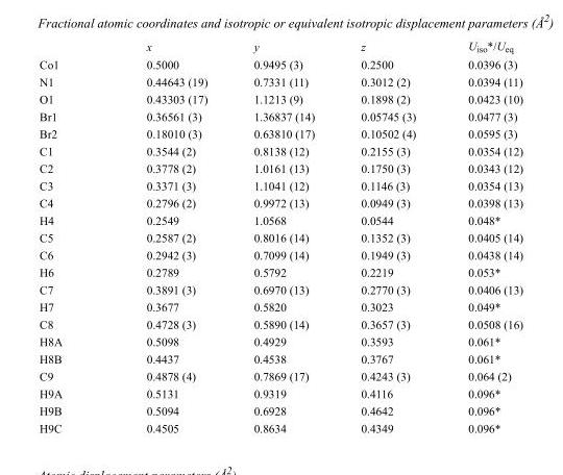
<table><thead><tr><td></td><td>x</td><td>y</td><td>z</td><td>U<sub>iso</sub>*/U<sub>eq</sub></td></tr></thead><tbody><tr><td>Co1</td><td>0.5000</td><td>0.9495 (3)</td><td>0.2500</td><td>0.0396 (3)</td></tr><tr><td>N1</td><td>0.44643 (19)</td><td>0.7331 (11)</td><td>0.3012 (2)</td><td>0.0394 (11)</td></tr><tr><td>O1</td><td>0.43303 (17)</td><td>1.1213 (9)</td><td>0.1898 (2)</td><td>0.0423 (10)</td></tr><tr><td>Br1</td><td>0.36561 (3)</td><td>1.36837 (14)</td><td>0.05745 (3)</td><td>0.0477 (3)</td></tr><tr><td>Br2</td><td>0.18010 (3)</td><td>0.63810 (17)</td><td>0.10502 (4)</td><td>0.0595 (3)</td></tr><tr><td>C1</td><td>0.3544 (2)</td><td>0.8138 (12)</td><td>0.2155 (3)</td><td>0.0354 (12)</td></tr><tr><td>C2</td><td>0.3778 (2)</td><td>1.0161 (13)</td><td>0.1750 (3)</td><td>0.0343 (12)</td></tr><tr><td>C3</td><td>0.3371 (3)</td><td>1.1041 (12)</td><td>0.1146 (3)</td><td>0.0354 (13)</td></tr><tr><td>C4</td><td>0.2796 (2)</td><td>0.9972 (13)</td><td>0.0949 (3)</td><td>0.0398 (13)</td></tr><tr><td>H4</td><td>0.2549</td><td>1.0568</td><td>0.0544</td><td>0.048*</td></tr><tr><td>C5</td><td>0.2587 (2)</td><td>0.8016 (14)</td><td>0.1352 (3)</td><td>0.0405 (14)</td></tr><tr><td>C6</td><td>0.2942 (3)</td><td>0.7099 (14)</td><td>0.1949 (3)</td><td>0.0438 (14)</td></tr><tr><td>H6</td><td>0.2789</td><td>0.5792</td><td>0.2219</td><td>0.053*</td></tr><tr><td>C7</td><td>0.3891 (3)</td><td>0.6970 (13)</td><td>0.2770 (3)</td><td>0.0406 (13)</td></tr><tr><td>H7</td><td>0.3677</td><td>0.5820</td><td>0.3023</td><td>0.049*</td></tr><tr><td>C8</td><td>0.4728 (3)</td><td>0.5890 (14)</td><td>0.3657 (3)</td><td>0.0508 (16)</td></tr><tr><td>H8A</td><td>0.5098</td><td>0.4929</td><td>0.3593</td><td>0.061*</td></tr><tr><td>H8B</td><td>0.4437</td><td>0.4538</td><td>0.3767</td><td>0.061*</td></tr><tr><td>C9</td><td>0.4878 (4)</td><td>0.7869 (17)</td><td>0.4243 (3)</td><td>0.064 (2)</td></tr><tr><td>H9A</td><td>0.5131</td><td>0.9319</td><td>0.4116</td><td>0.096*</td></tr><tr><td>H9B</td><td>0.5094</td><td>0.6928</td><td>0.4642</td><td>0.096*</td></tr><tr><td>H9C</td><td>0.4505</td><td>0.8634</td><td>0.4349</td><td>0.096*</td></tr></tbody></table>